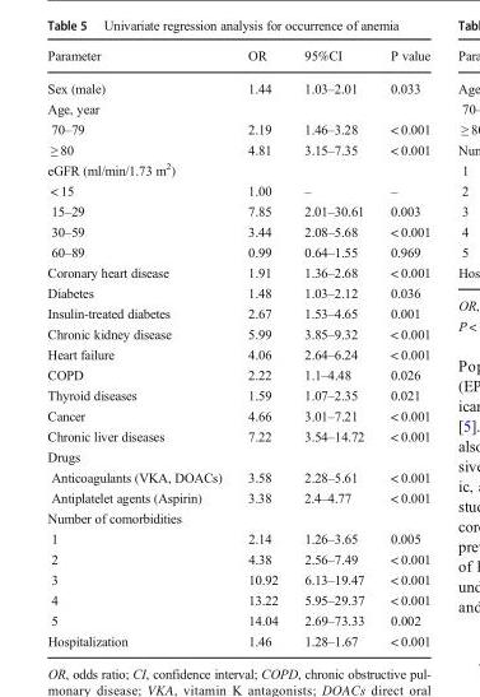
<table><thead><tr><td>Parameter</td><td>OR</td><td>95%CI</td><td>P value</td></tr></thead><tbody><tr><td>Sex (male)</td><td>1.44</td><td>1.03–2.01</td><td>0.033</td></tr><tr><td colspan="4">Age, year</td></tr><tr><td>70–79</td><td>2.19</td><td>1.46–3.28</td><td>&lt; 0.001</td></tr><tr><td>≥ 80</td><td>4.81</td><td>3.15–7.35</td><td>&lt; 0.001</td></tr><tr><td colspan="4">eGFR (ml/min/1.73 m<sup>2</sup>)</td></tr><tr><td>&lt; 15</td><td>1.00</td><td>–</td><td>–</td></tr><tr><td>15–29</td><td>7.85</td><td>2.01–30.61</td><td>0.003</td></tr><tr><td>30–59</td><td>3.44</td><td>2.08–5.68</td><td>&lt; 0.001</td></tr><tr><td>60–89</td><td>0.99</td><td>0.64–1.55</td><td>0.969</td></tr><tr><td>Coronary heart disease</td><td>1.91</td><td>1.36–2.68</td><td>&lt; 0.001</td></tr><tr><td>Diabetes</td><td>1.48</td><td>1.03–2.12</td><td>0.036</td></tr><tr><td>Insulin-treated diabetes</td><td>2.67</td><td>1.53–4.65</td><td>0.001</td></tr><tr><td>Chronic kidney disease</td><td>5.99</td><td>3.85–9.32</td><td>&lt; 0.001</td></tr><tr><td>Heart failure</td><td>4.06</td><td>2.64–6.24</td><td>&lt; 0.001</td></tr><tr><td>COPD</td><td>2.22</td><td>1.1–4.48</td><td>0.026</td></tr><tr><td>Thyroid diseases</td><td>1.59</td><td>1.07–2.35</td><td>0.021</td></tr><tr><td>Cancer</td><td>4.66</td><td>3.01–7.21</td><td>&lt; 0.001</td></tr><tr><td>Chronic liver diseases</td><td>7.22</td><td>3.54–14.72</td><td>&lt; 0.001</td></tr><tr><td colspan="4">Drugs</td></tr><tr><td>Anticoagulants (VKA, DOACs)</td><td>3.58</td><td>2.28–5.61</td><td>&lt; 0.001</td></tr><tr><td>Antiplatelet agents (Aspirin)</td><td>3.38</td><td>2.4–4.77</td><td>&lt; 0.001</td></tr><tr><td colspan="4">Number of comorbidities</td></tr><tr><td>1</td><td>2.14</td><td>1.26–3.65</td><td>0.005</td></tr><tr><td>2</td><td>4.38</td><td>2.56–7.49</td><td>&lt; 0.001</td></tr><tr><td>3</td><td>10.92</td><td>6.13–19.47</td><td>&lt; 0.001</td></tr><tr><td>4</td><td>13.22</td><td>5.95–29.37</td><td>&lt; 0.001</td></tr><tr><td>5</td><td>14.04</td><td>2.69–73.33</td><td>0.002</td></tr><tr><td>Hospitalization</td><td>1.46</td><td>1.28–1.67</td><td>&lt; 0.001</td></tr></tbody></table>